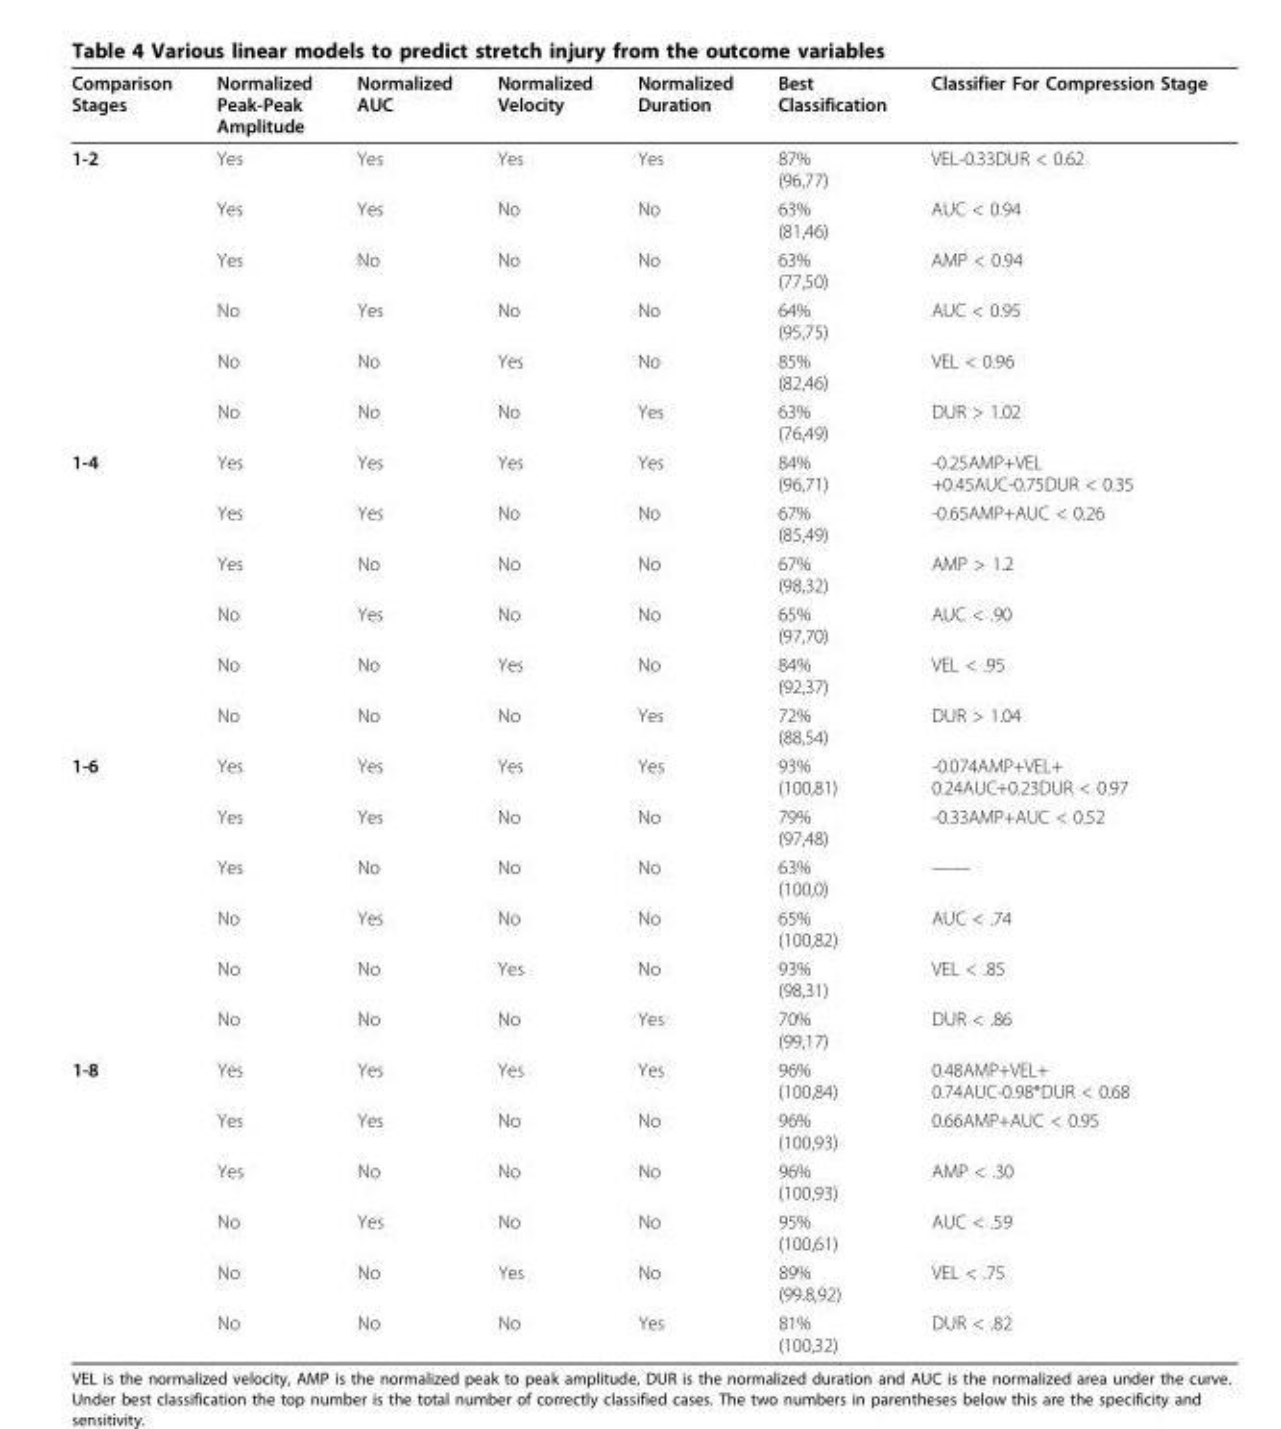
<table><thead><tr><td>Comparison Stages</td><td>Normalized Peak-Peak Amplitude</td><td>Normalized AUC</td><td>Normalized Velocity</td><td>Normalized Duration</td><td>Best Classification</td><td>Classifier For Compression Stage</td></tr></thead><tbody><tr><td rowspan="6">1-2</td><td>Yes</td><td>Yes</td><td>Yes</td><td>Yes</td><td>87% (96,77)</td><td>VEL-0.33DUR &lt; 0.62</td></tr><tr><td>Yes</td><td>Yes</td><td>No</td><td>No</td><td>63% (81,46)</td><td>AUC &lt; 0.94</td></tr><tr><td>Yes</td><td>No</td><td>No</td><td>No</td><td>63% (77,50)</td><td>AMP &lt; 0.94</td></tr><tr><td>No</td><td>Yes</td><td>No</td><td>No</td><td>64% (95,75)</td><td>AUC &lt; 0.95</td></tr><tr><td>No</td><td>No</td><td>Yes</td><td>No</td><td>85% (82,46)</td><td>VEL &lt; 0.96</td></tr><tr><td>No</td><td>No</td><td>No</td><td>Yes</td><td>63% (76,49)</td><td>DUR &gt; 1.02</td></tr><tr><td rowspan="6">1-4</td><td>Yes</td><td>Yes</td><td>Yes</td><td>Yes</td><td>84% (96,71)</td><td>-0.25AMP+VEL +0.45AUC-0.75DUR &lt; 0.35</td></tr><tr><td>Yes</td><td>Yes</td><td>No</td><td>No</td><td>67% (85,49)</td><td>-0.65AMP+AUC &lt; 0.26</td></tr><tr><td>Yes</td><td>No</td><td>No</td><td>No</td><td>67% (98,32)</td><td>AMP &gt; 1.2</td></tr><tr><td>No</td><td>Yes</td><td>No</td><td>No</td><td>65% (97,70)</td><td>AUC &lt; .90</td></tr><tr><td>No</td><td>No</td><td>Yes</td><td>No</td><td>84% (92,37)</td><td>VEL &lt; .95</td></tr><tr><td>No</td><td>No</td><td>No</td><td>Yes</td><td>72% (88,54)</td><td>DUR &gt; 1.04</td></tr><tr><td rowspan="6">1-6</td><td>Yes</td><td>Yes</td><td>Yes</td><td>Yes</td><td>93% (100,81)</td><td>-0.074AMP+VEL+ 0.24AUC+0.23DUR &lt; 0.97</td></tr><tr><td>Yes</td><td>Yes</td><td>No</td><td>No</td><td>79% (97,48)</td><td>-0.33AMP+AUC &lt; 0.52</td></tr><tr><td>Yes</td><td>No</td><td>No</td><td>No</td><td>63% (100,0)</td><td>——</td></tr><tr><td>No</td><td>Yes</td><td>No</td><td>No</td><td>65% (100,82)</td><td>AUC &lt; .74</td></tr><tr><td>No</td><td>No</td><td>Yes</td><td>No</td><td>93% (98,31)</td><td>VEL &lt; .85</td></tr><tr><td>No</td><td>No</td><td>No</td><td>Yes</td><td>70% (99,17)</td><td>DUR &lt; .86</td></tr><tr><td rowspan="6">1-8</td><td>Yes</td><td>Yes</td><td>Yes</td><td>Yes</td><td>96% (100,84)</td><td>0.48AMP+VEL+ 0.74AUC-0.98*DUR &lt; 0.68</td></tr><tr><td>Yes</td><td>Yes</td><td>No</td><td>No</td><td>96% (100,93)</td><td>0.66AMP+AUC &lt; 0.95</td></tr><tr><td>Yes</td><td>No</td><td>No</td><td>No</td><td>96% (100,93)</td><td>AMP &lt; .30</td></tr><tr><td>No</td><td>Yes</td><td>No</td><td>No</td><td>95% (100,61)</td><td>AUC &lt; .59</td></tr><tr><td>No</td><td>No</td><td>Yes</td><td>No</td><td>89% (99.8,92)</td><td>VEL &lt; .75</td></tr><tr><td>No</td><td>No</td><td>No</td><td>Yes</td><td>81% (100,32)</td><td>DUR &lt; .82</td></tr></tbody></table>